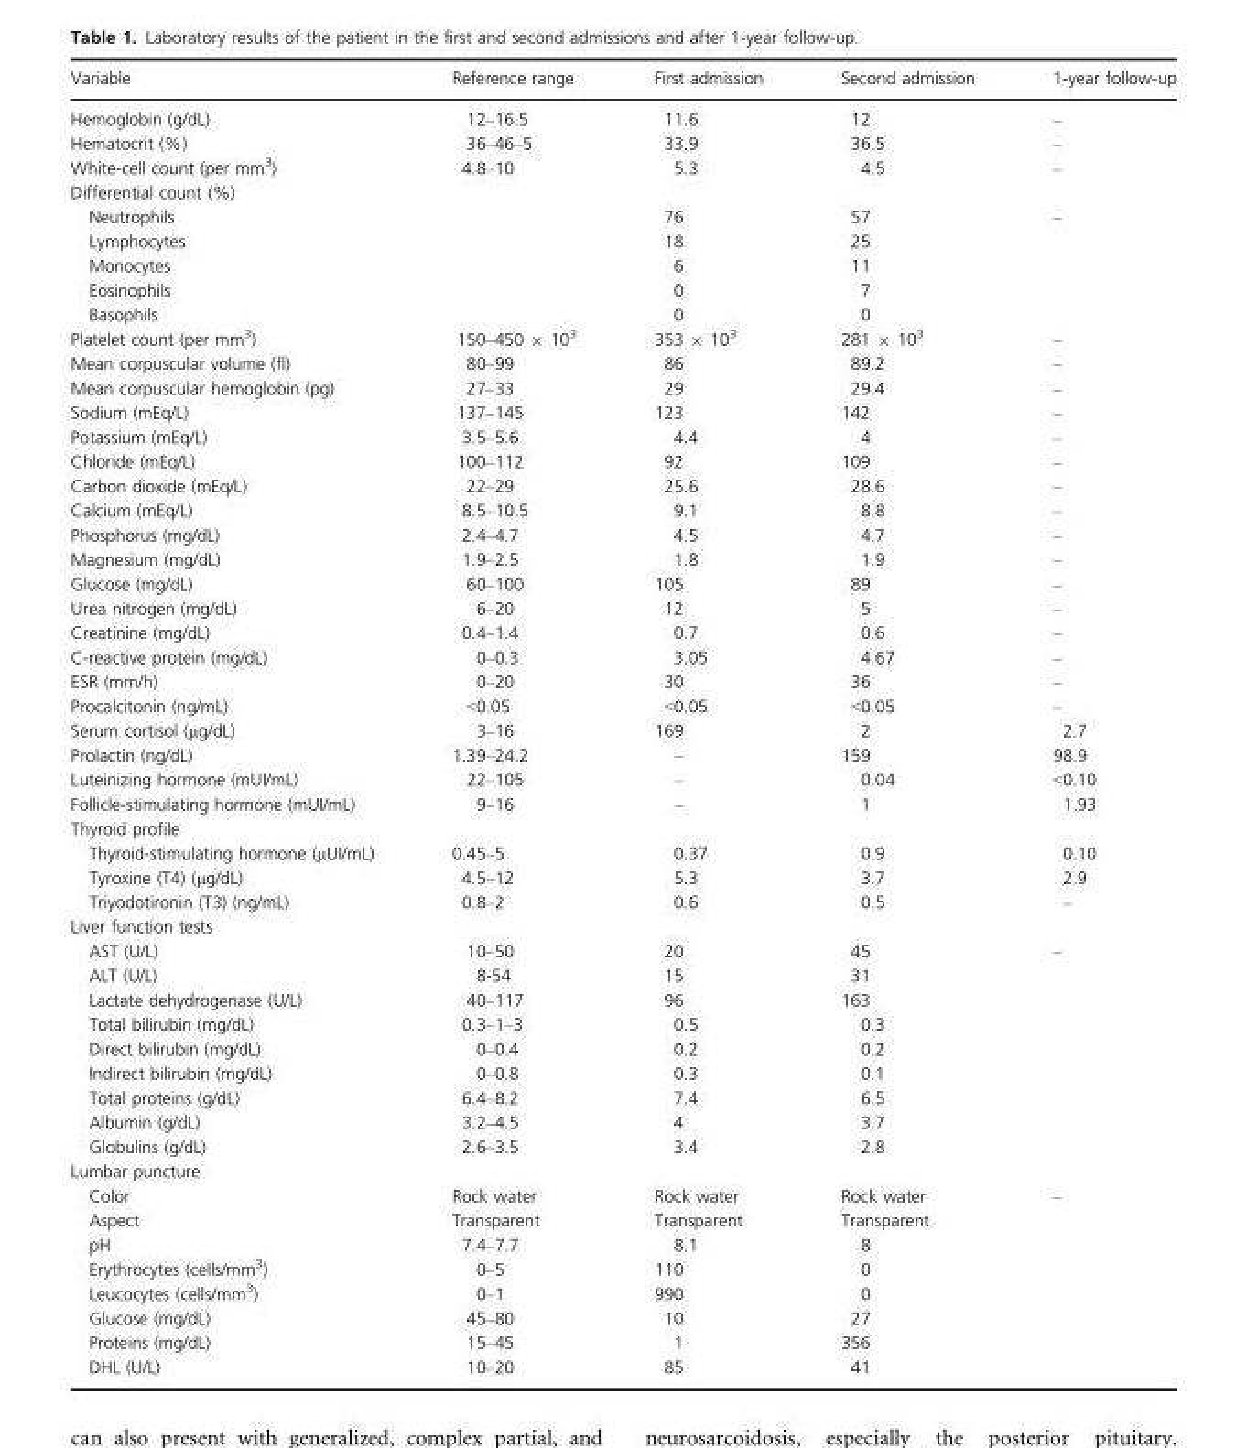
<table><thead><tr><td>Variable</td><td>Reference range</td><td>First admission</td><td>Second admission</td><td>1-year follow-up</td></tr></thead><tbody><tr><td>Hemoglobin (g/dL)</td><td>12–16.5</td><td>11.6</td><td>12</td><td>–</td></tr><tr><td>Hematocrit (%)</td><td>36–46–5</td><td>33.9</td><td>36.5</td><td>–</td></tr><tr><td>White-cell count (per mm<sup>3</sup>)</td><td>4.8–10</td><td>5.3</td><td>4.5</td><td>–</td></tr><tr><td colspan="5">Differential count (%)</td></tr><tr><td>Neutrophils</td><td></td><td>76</td><td>57</td><td rowspan="5">–</td></tr><tr><td>Lymphocytes</td><td></td><td>18</td><td>25</td></tr><tr><td>Monocytes</td><td></td><td>6</td><td>11</td></tr><tr><td>Eosinophils</td><td></td><td>0</td><td>7</td></tr><tr><td>Basophils</td><td></td><td>0</td><td>0</td></tr><tr><td>Platelet count (per mm<sup>3</sup>)</td><td>150–450 × 10<sup>3</sup></td><td>353 × 10<sup>3</sup></td><td>281 × 10<sup>3</sup></td><td>–</td></tr><tr><td>Mean corpuscular volume (fl)</td><td>80–99</td><td>86</td><td>89.2</td><td>–</td></tr><tr><td>Mean corpuscular hemoglobin (pg)</td><td>27–33</td><td>29</td><td>29.4</td><td>–</td></tr><tr><td>Sodium (mEq/L)</td><td>137–145</td><td>123</td><td>142</td><td>–</td></tr><tr><td>Potassium (mEq/L)</td><td>3.5–5.6</td><td>4.4</td><td>4</td><td>–</td></tr><tr><td>Chloride (mEq/L)</td><td>100–112</td><td>92</td><td>109</td><td>–</td></tr><tr><td>Carbon dioxide (mEq/L)</td><td>22–29</td><td>25.6</td><td>28.6</td><td>–</td></tr><tr><td>Calcium (mEq/L)</td><td>8.5–10.5</td><td>9.1</td><td>8.8</td><td>–</td></tr><tr><td>Phosphorus (mg/dL)</td><td>2.4–4.7</td><td>4.5</td><td>4.7</td><td>–</td></tr><tr><td>Magnesium (mg/dL)</td><td>1.9–2.5</td><td>1.8</td><td>1.9</td><td>–</td></tr><tr><td>Glucose (mg/dL)</td><td>60–100</td><td>105</td><td>89</td><td>–</td></tr><tr><td>Urea nitrogen (mg/dL)</td><td>6–20</td><td>12</td><td>5</td><td>–</td></tr><tr><td>Creatinine (mg/dL)</td><td>0.4–1.4</td><td>0.7</td><td>0.6</td><td>–</td></tr><tr><td>C-reactive protein (mg/dL)</td><td>0–0.3</td><td>3.05</td><td>4.67</td><td>–</td></tr><tr><td>ESR (mm/h)</td><td>0–20</td><td>30</td><td>36</td><td>–</td></tr><tr><td>Procalcitonin (ng/mL)</td><td>&lt;0.05</td><td>&lt;0.05</td><td>&lt;0.05</td><td>–</td></tr><tr><td>Serum cortisol (μg/dL)</td><td>3–16</td><td>169</td><td>2</td><td>2.7</td></tr><tr><td>Prolactin (ng/dL)</td><td>1.39–24.2</td><td>–</td><td>159</td><td>98.9</td></tr><tr><td>Luteinizing hormone (mUI/mL)</td><td>22–105</td><td>–</td><td>0.04</td><td>&lt;0.10</td></tr><tr><td>Follicle-stimulating hormone (mUI/mL)</td><td>9–16</td><td>–</td><td>1</td><td>1.93</td></tr><tr><td colspan="5">Thyroid profile</td></tr><tr><td>Thyroid-stimulating hormone (μUI/mL)</td><td>0.45–5</td><td>0.37</td><td>0.9</td><td>0.10</td></tr><tr><td>Tyroxine (T4) (μg/dL)</td><td>4.5–12</td><td>5.3</td><td>3.7</td><td>2.9</td></tr><tr><td>Triyodotironin (T3) (ng/mL)</td><td>0.8–2</td><td>0.6</td><td>0.5</td><td>–</td></tr><tr><td colspan="5">Liver function tests</td></tr><tr><td>AST (U/L)</td><td>10–50</td><td>20</td><td>45</td><td rowspan="9">–</td></tr><tr><td>ALT (U/L)</td><td>8-54</td><td>15</td><td>31</td></tr><tr><td>Lactate dehydrogenase (U/L)</td><td>40–117</td><td>96</td><td>163</td></tr><tr><td>Total bilirubin (mg/dL)</td><td>0.3–1–3</td><td>0.5</td><td>0.3</td></tr><tr><td>Direct bilirubin (mg/dL)</td><td>0–0.4</td><td>0.2</td><td>0.2</td></tr><tr><td>Indirect bilirubin (mg/dL)</td><td>0–0.8</td><td>0.3</td><td>0.1</td></tr><tr><td>Total proteins (g/dL)</td><td>6.4–8.2</td><td>7.4</td><td>6.5</td></tr><tr><td>Albumin (g/dL)</td><td>3.2–4.5</td><td>4</td><td>3.7</td></tr><tr><td>Globulins (g/dL)</td><td>2.6–3.5</td><td>3.4</td><td>2.8</td></tr><tr><td colspan="5">Lumbar puncture</td></tr><tr><td>Color</td><td>Rock water</td><td>Rock water</td><td>Rock water</td><td rowspan="8">–</td></tr><tr><td>Aspect</td><td>Transparent</td><td>Transparent</td><td>Transparent</td></tr><tr><td>pH</td><td>7.4–7.7</td><td>8.1</td><td>8</td></tr><tr><td>Erythrocytes (cells/mm<sup>3</sup>)</td><td>0–5</td><td>110</td><td>0</td></tr><tr><td>Leucocytes (cells/mm<sup>3</sup>)</td><td>0–1</td><td>990</td><td>0</td></tr><tr><td>Glucose (mg/dL)</td><td>45–80</td><td>10</td><td>27</td></tr><tr><td>Proteins (mg/dL)</td><td>15–45</td><td>1</td><td>356</td></tr><tr><td>DHL (U/L)</td><td>10–20</td><td>85</td><td>41</td></tr></tbody></table>